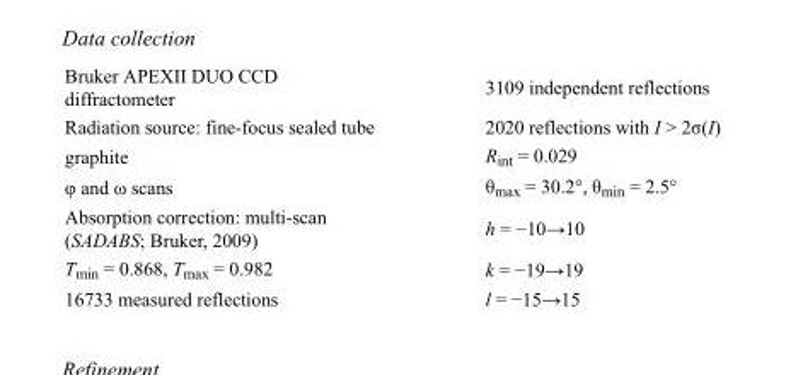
<table><tbody><tr><td>Bruker APEXII DUO CCD diffractometer</td><td>3109 independent reflections</td></tr><tr><td>Radiation source: fine-focus sealed tube</td><td>2020 reflections with I &gt; 2σ(I)</td></tr><tr><td>graphite</td><td>R<sub>int</sub> = 0.029</td></tr><tr><td>φ and ω scans</td><td>θ<sub>max</sub> = 30.2°, θ<sub>min</sub> = 2.5°</td></tr><tr><td>Absorption correction: multi-scan (SADABS; Bruker, 2009)</td><td>h = −10→10</td></tr><tr><td>T<sub>min</sub> = 0.868, T<sub>max</sub> = 0.982</td><td>k = −19→19</td></tr><tr><td>16733 measured reflections</td><td>l = −15→15</td></tr></tbody></table>